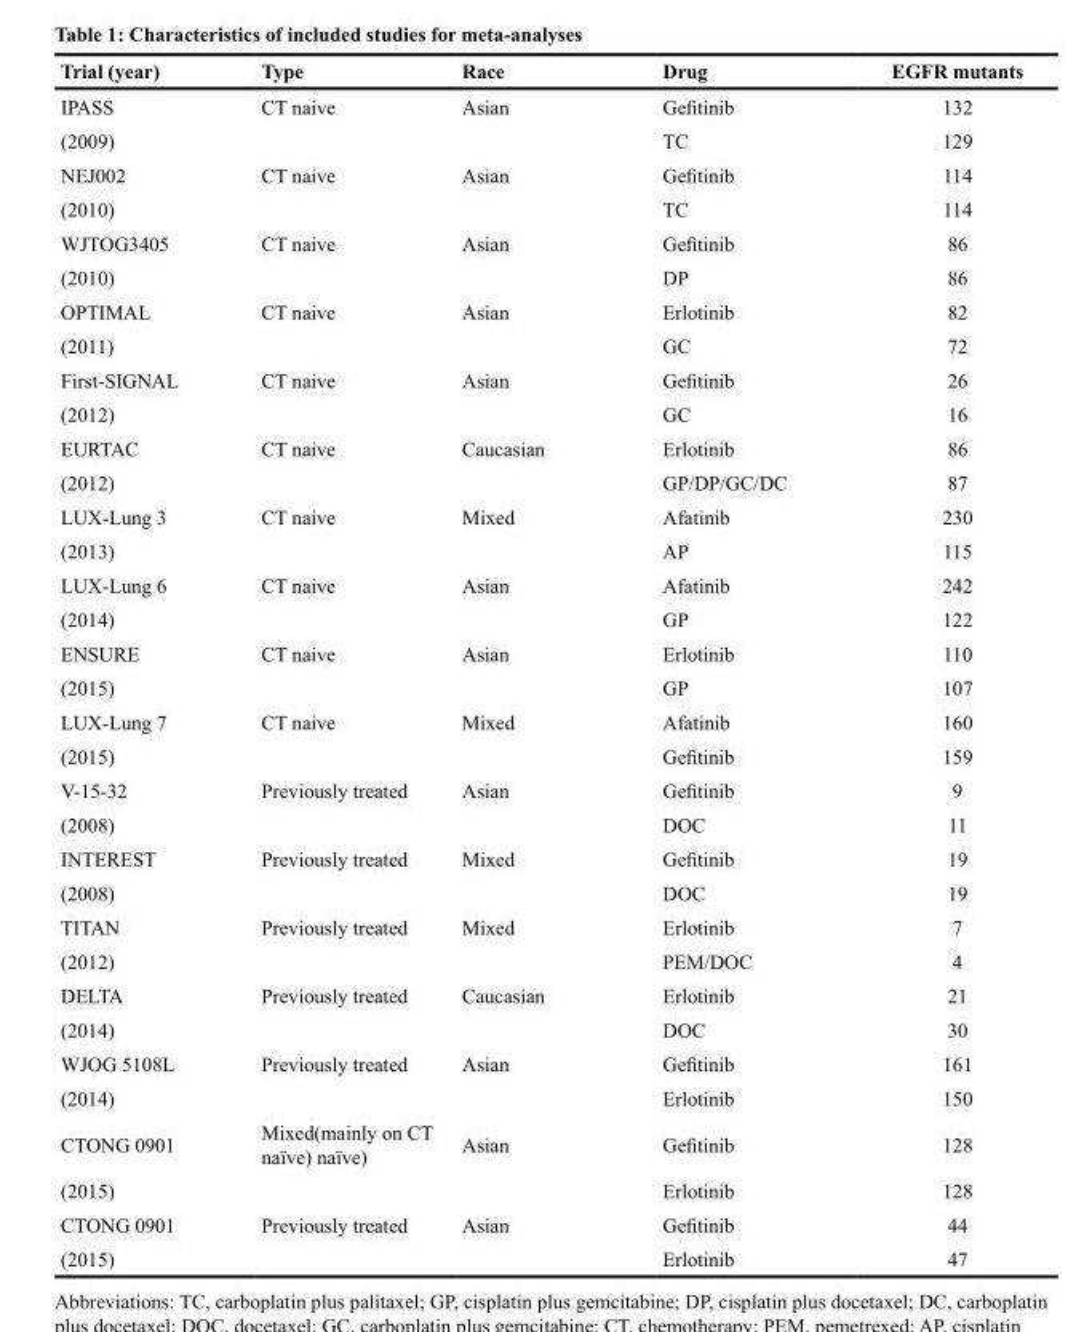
<table><thead><tr><td>Trial (year)</td><td>Type</td><td>Race</td><td>Drug</td><td>EGFR mutants</td></tr></thead><tbody><tr><td>IPASS</td><td>CT naive</td><td>Asian</td><td>Gefitinib</td><td>132</td></tr><tr><td>(2009)</td><td></td><td></td><td>TC</td><td>129</td></tr><tr><td>NEJ002</td><td>CT naive</td><td>Asian</td><td>Gefitinib</td><td>114</td></tr><tr><td>(2010)</td><td></td><td></td><td>TC</td><td>114</td></tr><tr><td>WJTOG3405</td><td>CT naive</td><td>Asian</td><td>Gefitinib</td><td>86</td></tr><tr><td>(2010)</td><td></td><td></td><td>DP</td><td>86</td></tr><tr><td>OPTIMAL</td><td>CT naive</td><td>Asian</td><td>Erlotinib</td><td>82</td></tr><tr><td>(2011)</td><td></td><td></td><td>GC</td><td>72</td></tr><tr><td>First-SIGNAL</td><td>CT naive</td><td>Asian</td><td>Gefitinib</td><td>26</td></tr><tr><td>(2012)</td><td></td><td></td><td>GC</td><td>16</td></tr><tr><td>EURTAC</td><td>CT naive</td><td>Caucasian</td><td>Erlotinib</td><td>86</td></tr><tr><td>(2012)</td><td></td><td></td><td>GP/DP/GC/DC</td><td>87</td></tr><tr><td>LUX-Lung 3</td><td>CT naive</td><td>Mixed</td><td>Afatinib</td><td>230</td></tr><tr><td>(2013)</td><td></td><td></td><td>AP</td><td>115</td></tr><tr><td>LUX-Lung 6</td><td>CT naive</td><td>Asian</td><td>Afatinib</td><td>242</td></tr><tr><td>(2014)</td><td></td><td></td><td>GP</td><td>122</td></tr><tr><td>ENSURE</td><td>CT naive</td><td>Asian</td><td>Erlotinib</td><td>110</td></tr><tr><td>(2015)</td><td></td><td></td><td>GP</td><td>107</td></tr><tr><td>LUX-Lung 7</td><td>CT naive</td><td>Mixed</td><td>Afatinib</td><td>160</td></tr><tr><td>(2015)</td><td></td><td></td><td>Gefitinib</td><td>159</td></tr><tr><td>V-15-32</td><td>Previously treated</td><td>Asian</td><td>Gefitinib</td><td>9</td></tr><tr><td>(2008)</td><td></td><td></td><td>DOC</td><td>11</td></tr><tr><td>INTEREST</td><td>Previously treated</td><td>Mixed</td><td>Gefitinib</td><td>19</td></tr><tr><td>(2008)</td><td></td><td></td><td>DOC</td><td>19</td></tr><tr><td>TITAN</td><td>Previously treated</td><td>Mixed</td><td>Erlotinib</td><td>7</td></tr><tr><td>(2012)</td><td></td><td></td><td>PEM/DOC</td><td>4</td></tr><tr><td>DELTA</td><td>Previously treated</td><td>Caucasian</td><td>Erlotinib</td><td>21</td></tr><tr><td>(2014)</td><td></td><td></td><td>DOC</td><td>30</td></tr><tr><td>WJOG 5108L</td><td>Previously treated</td><td>Asian</td><td>Gefitinib</td><td>161</td></tr><tr><td>(2014)</td><td></td><td></td><td>Erlotinib</td><td>150</td></tr><tr><td>CTONG 0901</td><td>Mixed(mainly on CT naïve) naïve)</td><td>Asian</td><td>Gefitinib</td><td>128</td></tr><tr><td>(2015)</td><td></td><td></td><td>Erlotinib</td><td>128</td></tr><tr><td>CTONG 0901</td><td>Previously treated</td><td>Asian</td><td>Gefitinib</td><td>44</td></tr><tr><td>(2015)</td><td></td><td></td><td>Erlotinib</td><td>47</td></tr></tbody></table>